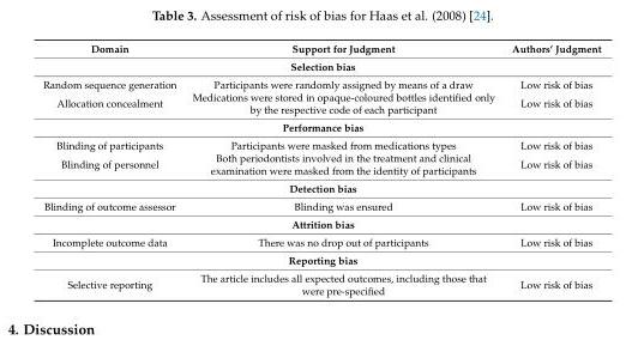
<table><thead><tr><td>Domain</td><td>Support for Judgment</td><td>Authors’ Judgment</td></tr></thead><tbody><tr><td colspan="3">Selection bias</td></tr><tr><td>Random sequence generation</td><td>Participants were randomly assigned by means of a draw</td><td>Low risk of bias</td></tr><tr><td>Allocation concealment</td><td>Medications were stored in opaque-coloured bottles identified only by the respective code of each participant</td><td>Low risk of bias</td></tr><tr><td colspan="3">Performance bias</td></tr><tr><td>Blinding of participants</td><td>Participants were masked from medications types</td><td>Low risk of bias</td></tr><tr><td>Blinding of personnel</td><td>Both periodontists involved in the treatment and clinical examination were masked from the identity of participants</td><td>Low risk of bias</td></tr><tr><td colspan="3">Detection bias</td></tr><tr><td>Blinding of outcome assessor</td><td>Blinding was ensured</td><td>Low risk of bias</td></tr><tr><td colspan="3">Attrition bias</td></tr><tr><td>Incomplete outcome data</td><td>There was no drop out of participants</td><td>Low risk of bias</td></tr><tr><td colspan="3">Reporting bias</td></tr><tr><td>Selective reporting</td><td>The article includes all expected outcomes, including those that were pre-specified</td><td>Low risk of bias</td></tr></tbody></table>